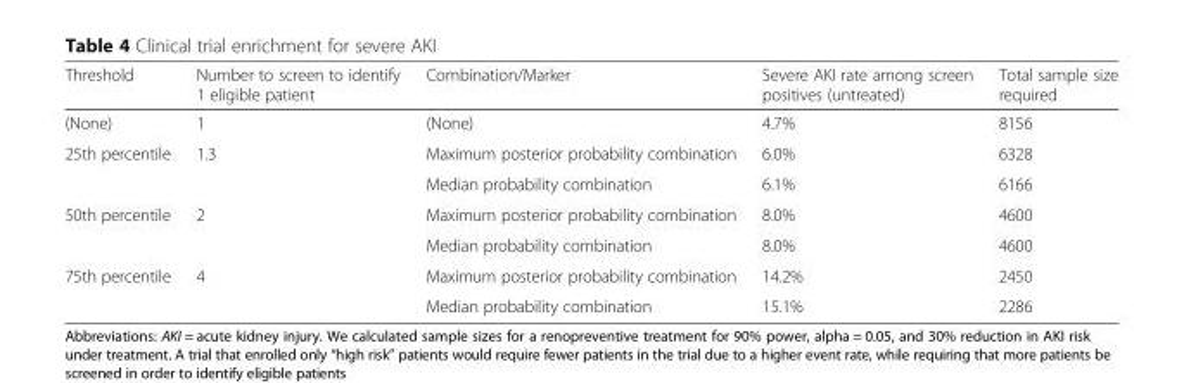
<table><thead><tr><td>Threshold</td><td>Number to screen to identify 1 eligible patient</td><td>Combination/Marker</td><td>Severe AKI rate among screen positives (untreated)</td><td>Total sample size required</td></tr></thead><tbody><tr><td>(None)</td><td>1</td><td>(None)</td><td>4.7%</td><td>8156</td></tr><tr><td rowspan="2">25th percentile</td><td rowspan="2">1.3</td><td>Maximum posterior probability combination</td><td>6.0%</td><td>6328</td></tr><tr><td>Median probability combination</td><td>6.1%</td><td>6166</td></tr><tr><td rowspan="2">50th percentile</td><td rowspan="2">2</td><td>Maximum posterior probability combination</td><td>8.0%</td><td>4600</td></tr><tr><td>Median probability combination</td><td>8.0%</td><td>4600</td></tr><tr><td rowspan="2">75th percentile</td><td rowspan="2">4</td><td>Maximum posterior probability combination</td><td>14.2%</td><td>2450</td></tr><tr><td>Median probability combination</td><td>15.1%</td><td>2286</td></tr></tbody></table>